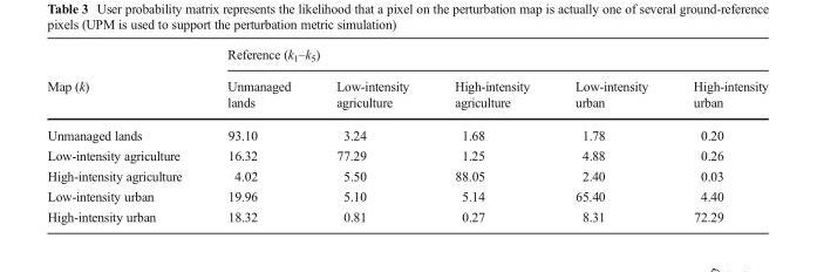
<table><thead><tr><td rowspan="2">Map (k)</td><td colspan="5">Reference (k<sub>1</sub>–k<sub>5</sub>)</td></tr><tr><td>Unmanaged lands</td><td>Low-intensity agriculture</td><td>High-intensity agriculture</td><td>Low-intensity urban</td><td>High-intensity urban</td></tr></thead><tbody><tr><td>Unmanaged lands</td><td>93.10</td><td>3.24</td><td>1.68</td><td>1.78</td><td>0.20</td></tr><tr><td>Low-intensity agriculture</td><td>16.32</td><td>77.29</td><td>1.25</td><td>4.88</td><td>0.26</td></tr><tr><td>High-intensity agriculture</td><td>4.02</td><td>5.50</td><td>88.05</td><td>2.40</td><td>0.03</td></tr><tr><td>Low-intensity urban</td><td>19.96</td><td>5.10</td><td>5.14</td><td>65.40</td><td>4.40</td></tr><tr><td>High-intensity urban</td><td>18.32</td><td>0.81</td><td>0.27</td><td>8.31</td><td>72.29</td></tr></tbody></table>